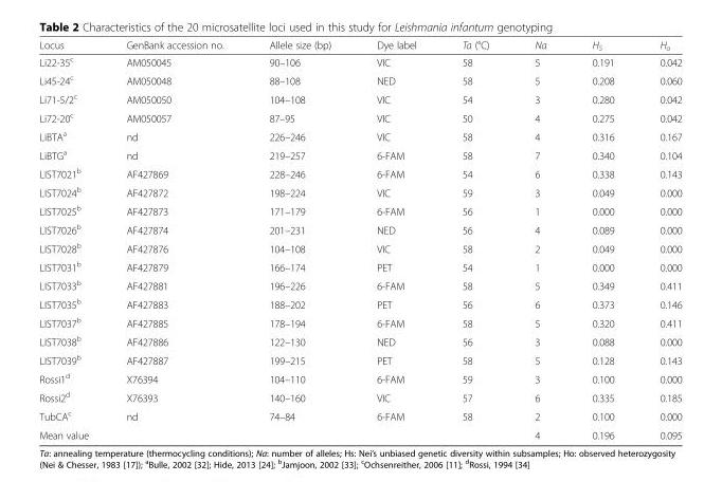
<table><thead><tr><td>Locus</td><td>GenBank accession no.</td><td>Allele size (bp)</td><td>Dye label</td><td>Ta (°C)</td><td>Na</td><td>H<sub>S</sub></td><td>H<sub>o</sub></td></tr></thead><tbody><tr><td>Li22-35<sup>c</sup></td><td>AM050045</td><td>90–106</td><td>VIC</td><td>58</td><td>5</td><td>0.191</td><td>0.042</td></tr><tr><td>Li45-24<sup>c</sup></td><td>AM050048</td><td>88–108</td><td>NED</td><td>58</td><td>5</td><td>0.208</td><td>0.060</td></tr><tr><td>Li71-5/2<sup>c</sup></td><td>AM050050</td><td>104–108</td><td>VIC</td><td>54</td><td>3</td><td>0.280</td><td>0.042</td></tr><tr><td>Li72-20<sup>c</sup></td><td>AM050057</td><td>87–95</td><td>VIC</td><td>50</td><td>4</td><td>0.275</td><td>0.042</td></tr><tr><td>LiBTA<sup>a</sup></td><td>nd</td><td>226–246</td><td>VIC</td><td>58</td><td>4</td><td>0.316</td><td>0.167</td></tr><tr><td>LiBTG<sup>a</sup></td><td>nd</td><td>219–257</td><td>6-FAM</td><td>58</td><td>7</td><td>0.340</td><td>0.104</td></tr><tr><td>LIST7021<sup>b</sup></td><td>AF427869</td><td>228–246</td><td>6-FAM</td><td>54</td><td>6</td><td>0.338</td><td>0.143</td></tr><tr><td>LIST7024<sup>b</sup></td><td>AF427872</td><td>198–224</td><td>VIC</td><td>59</td><td>3</td><td>0.049</td><td>0.000</td></tr><tr><td>LIST7025<sup>b</sup></td><td>AF427873</td><td>171–179</td><td>6-FAM</td><td>56</td><td>1</td><td>0.000</td><td>0.000</td></tr><tr><td>LIST7026<sup>b</sup></td><td>AF427874</td><td>201–231</td><td>NED</td><td>56</td><td>4</td><td>0.089</td><td>0.000</td></tr><tr><td>LIST7028<sup>b</sup></td><td>AF427876</td><td>104–108</td><td>VIC</td><td>58</td><td>2</td><td>0.049</td><td>0.000</td></tr><tr><td>LIST7031<sup>b</sup></td><td>AF427879</td><td>166–174</td><td>PET</td><td>54</td><td>1</td><td>0.000</td><td>0.000</td></tr><tr><td>LIST7033<sup>b</sup></td><td>AF427881</td><td>196–226</td><td>6-FAM</td><td>58</td><td>5</td><td>0.349</td><td>0.411</td></tr><tr><td>LIST7035<sup>b</sup></td><td>AF427883</td><td>188–202</td><td>PET</td><td>56</td><td>6</td><td>0.373</td><td>0.146</td></tr><tr><td>LIST7037<sup>b</sup></td><td>AF427885</td><td>178–194</td><td>6-FAM</td><td>58</td><td>5</td><td>0.320</td><td>0.411</td></tr><tr><td>LIST7038<sup>b</sup></td><td>AF427886</td><td>122–130</td><td>NED</td><td>56</td><td>3</td><td>0.088</td><td>0.000</td></tr><tr><td>LIST7039<sup>b</sup></td><td>AF427887</td><td>199–215</td><td>PET</td><td>58</td><td>5</td><td>0.128</td><td>0.143</td></tr><tr><td>Rossi1<sup>d</sup></td><td>X76394</td><td>104–110</td><td>6-FAM</td><td>59</td><td>3</td><td>0.100</td><td>0.000</td></tr><tr><td>Rossi2<sup>d</sup></td><td>X76393</td><td>140–160</td><td>VIC</td><td>57</td><td>6</td><td>0.335</td><td>0.185</td></tr><tr><td>TubCA<sup>c</sup></td><td>nd</td><td>74–84</td><td>6-FAM</td><td>58</td><td>2</td><td>0.100</td><td>0.000</td></tr><tr><td colspan="3">Mean value</td><td></td><td></td><td>4</td><td>0.196</td><td>0.095</td></tr></tbody></table>